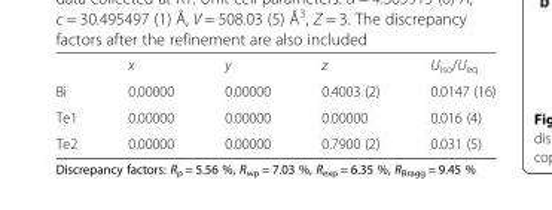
<table><thead><tr><td></td><td>x</td><td>y</td><td>z</td><td>U<sub>iso</sub>/U<sub>eq</sub></td></tr></thead><tbody><tr><td>Bi</td><td>0.00000</td><td>0.00000</td><td>0.4003 (2)</td><td>0.0147 (16)</td></tr><tr><td>Te1</td><td>0.00000</td><td>0.00000</td><td>0.00000</td><td>0.016 (4)</td></tr><tr><td>Te2</td><td>0.00000</td><td>0.00000</td><td>0.7900 (2)</td><td>0.031 (5)</td></tr></tbody></table>